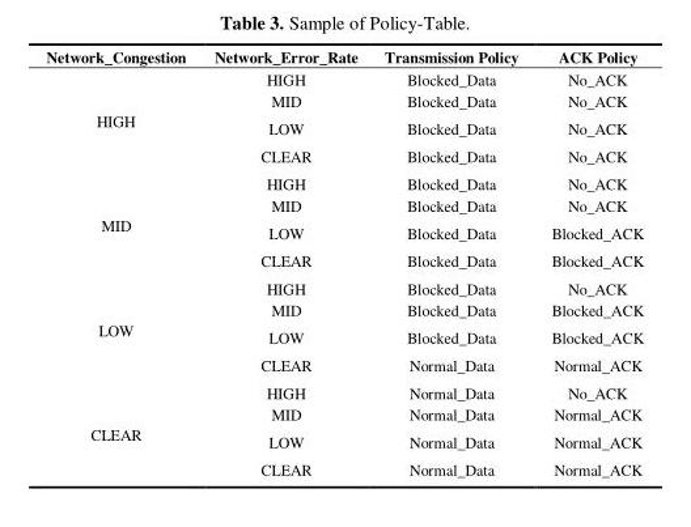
<table><thead><tr><td>Network_Congestion</td><td>Network_Error_Rate</td><td>Transmission Policy</td><td>ACK Policy</td></tr></thead><tbody><tr><td rowspan="4">HIGH</td><td>HIGH</td><td>Blocked_Data</td><td>No_ACK</td></tr><tr><td>MID</td><td>Blocked_Data</td><td>No_ACK</td></tr><tr><td>LOW</td><td>Blocked_Data</td><td>No_ACK</td></tr><tr><td>CLEAR</td><td>Blocked_Data</td><td>No_ACK</td></tr><tr><td rowspan="4">MID</td><td>HIGH</td><td>Blocked_Data</td><td>No_ACK</td></tr><tr><td>MID</td><td>Blocked_Data</td><td>No_ACK</td></tr><tr><td>LOW</td><td>Blocked_Data</td><td>Blocked_ACK</td></tr><tr><td>CLEAR</td><td>Blocked_Data</td><td>Blocked_ACK</td></tr><tr><td rowspan="4">LOW</td><td>HIGH</td><td>Blocked_Data</td><td>No_ACK</td></tr><tr><td>MID</td><td>Blocked_Data</td><td>Blocked_ACK</td></tr><tr><td>LOW</td><td>Blocked_Data</td><td>Blocked_ACK</td></tr><tr><td>CLEAR</td><td>Normal_Data</td><td>Normal_ACK</td></tr><tr><td rowspan="4">CLEAR</td><td>HIGH</td><td>Normal_Data</td><td>No_ACK</td></tr><tr><td>MID</td><td>Normal_Data</td><td>Normal_ACK</td></tr><tr><td>LOW</td><td>Normal_Data</td><td>Normal_ACK</td></tr><tr><td>CLEAR</td><td>Normal_Data</td><td>Normal_ACK</td></tr></tbody></table>